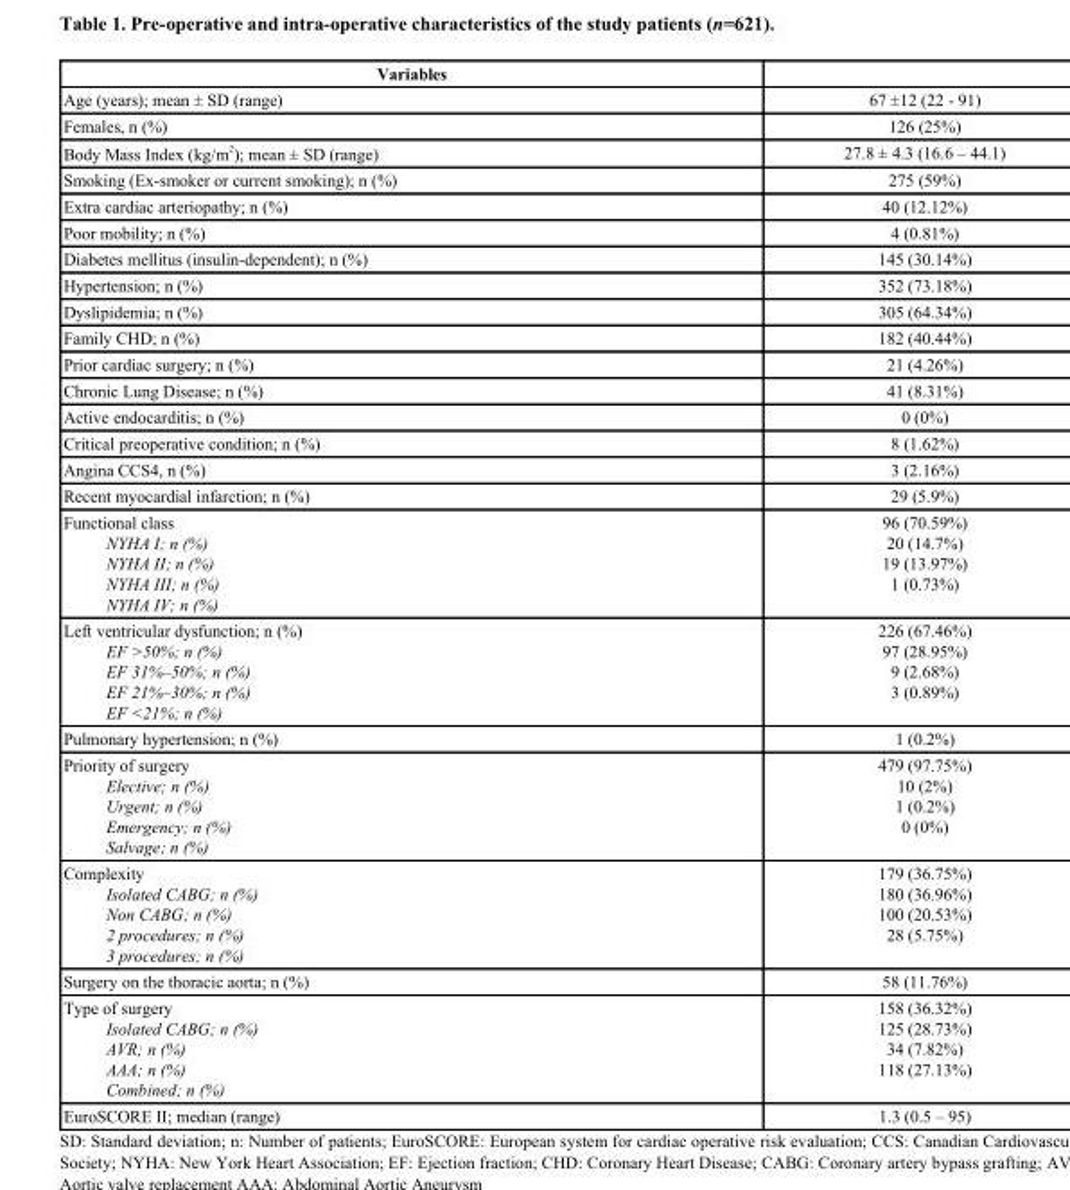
<table><thead><tr><td>Variables</td><td></td></tr></thead><tbody><tr><td>Age (years); mean ± SD (range)</td><td>67 ±12 (22 - 91)</td></tr><tr><td>Females, n (%)</td><td>126 (25%)</td></tr><tr><td>Body Mass Index (kg/m <sup>2</sup>); mean ± SD (range)</td><td>27.8 ± 4.3 (16.6 ‒ 44.1)</td></tr><tr><td>Smoking (Ex-smoker or current smoking); n (%)</td><td>275 (59%)</td></tr><tr><td>Extra cardiac arteriopathy; n (%)</td><td>40 (12.12%)</td></tr><tr><td>Poor mobility; n (%)</td><td>4 (0.81%)</td></tr><tr><td>Diabetes mellitus (insulin-dependent); n (%)</td><td>145 (30.14%)</td></tr><tr><td>Hypertension; n (%)</td><td>352 (73.18%)</td></tr><tr><td>Dyslipidemia; n (%)</td><td>305 (64.34%)</td></tr><tr><td>Family CHD; n (%)</td><td>182 (40.44%)</td></tr><tr><td>Prior cardiac surgery; n (%)</td><td>21 (4.26%)</td></tr><tr><td>Chronic Lung Disease; n (%)</td><td>41 (8.31%)</td></tr><tr><td>Active endocarditis; n (%)</td><td>0 (0%)</td></tr><tr><td>Critical preoperative condition; n (%)</td><td>8 (1.62%)</td></tr><tr><td>Angina CCS4, n (%)</td><td>3 (2.16%)</td></tr><tr><td>Recent myocardial infarction; n (%)</td><td>29 (5.9%)</td></tr><tr><td>Functional class NYHA I; n (%) NYHA II; n (%) NYHA III; n (%) NYHA IV; n (%)</td><td>96 (70.59%) 20 (14.7%) 19 (13.97%) 1 (0.73%)</td></tr><tr><td>Left ventricular dysfunction; n (%) EF &gt;50%; n (%) EF 31%–50%; n (%) EF 21%–30%; n (%) EF &lt;21%; n (%)</td><td>226 (67.46%) 97 (28.95%) 9 (2.68%) 3 (0.89%)</td></tr><tr><td>Pulmonary hypertension; n (%)</td><td>1 (0.2%)</td></tr><tr><td>Priority of surgery Elective; n (%) Urgent; n (%) Emergency; n (%) Salvage; n (%)</td><td>479 (97.75%) 10 (2%) 1 (0.2%) 0 (0%)</td></tr><tr><td>Complexity Isolated CABG; n (%) Non CABG; n (%) 2 procedures; n (%) 3 procedures; n (%)</td><td>179 (36.75%) 180 (36.96%) 100 (20.53%) 28 (5.75%)</td></tr><tr><td>Surgery on the thoracic aorta; n (%)</td><td>58 (11.76%)</td></tr><tr><td>Type of surgery Isolated CABG; n (%) AVR; n (%) AAA; n (%) Combined; n (%)</td><td>158 (36.32%) 125 (28.73%) 34 (7.82%) 118 (27.13%)</td></tr><tr><td>EuroSCORE II; median (range)</td><td>1.3 (0.5 – 95)</td></tr></tbody></table>